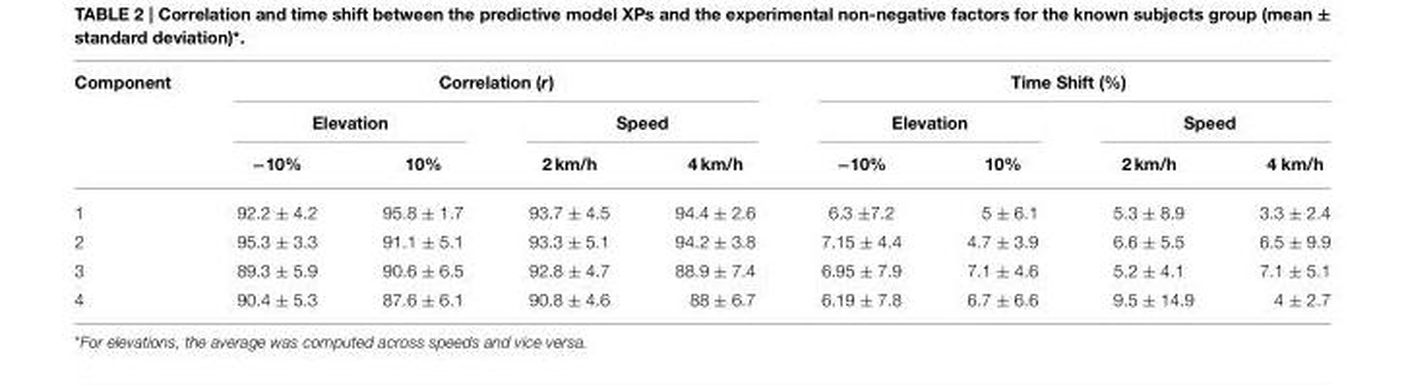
<table><thead><tr><td rowspan="3">Component</td><td colspan="4">Correlation (r)</td><td colspan="4">Time Shift (%)</td></tr><tr><td colspan="2">Elevation</td><td colspan="2">Speed</td><td colspan="2">Elevation</td><td colspan="2">Speed</td></tr><tr><td>−10%</td><td>10%</td><td>2 km/h</td><td>4 km/h</td><td>−10%</td><td>10%</td><td>2 km/h</td><td>4 km/h</td></tr></thead><tbody><tr><td>1</td><td>92.2 ± 4.2</td><td>95.8 ± 1.7</td><td>93.7 ± 4.5</td><td>94.4 ± 2.6</td><td>6.3 ±7.2</td><td>5 ± 6.1</td><td>5.3 ± 8.9</td><td>3.3 ± 2.4</td></tr><tr><td>2</td><td>95.3 ± 3.3</td><td>91.1 ± 5.1</td><td>93.3 ± 5.1</td><td>94.2 ± 3.8</td><td>7.15 ± 4.4</td><td>4.7 ± 3.9</td><td>6.6 ± 5.5</td><td>6.5 ± 9.9</td></tr><tr><td>3</td><td>89.3 ± 5.9</td><td>90.6 ± 6.5</td><td>92.8 ± 4.7</td><td>88.9 ± 7.4</td><td>6.95 ± 7.9</td><td>7.1 ± 4.6</td><td>5.2 ± 4.1</td><td>7.1 ± 5.1</td></tr><tr><td>4</td><td>90.4 ± 5.3</td><td>87.6 ± 6.1</td><td>90.8 ± 4.6</td><td>88 ± 6.7</td><td>6.19 ± 7.8</td><td>6.7 ± 6.6</td><td>9.5 ± 14.9</td><td>4 ± 2.7</td></tr></tbody></table>